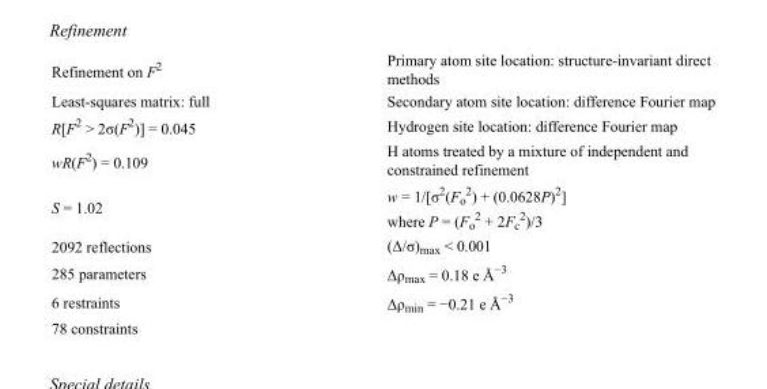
<table><tbody><tr><td>Refinement on F<sup>2</sup></td><td>Primary atom site location: structure-invariant direct methods</td></tr><tr><td>Least-squares matrix: full</td><td>Secondary atom site location: difference Fourier map</td></tr><tr><td>R[F<sup>2</sup> &gt; 2σ(F<sup>2</sup>)] = 0.045</td><td>Hydrogen site location: difference Fourier map</td></tr><tr><td>wR(F<sup>2</sup>) = 0.109</td><td>H atoms treated by a mixture of independent and constrained refinement</td></tr><tr><td>S = 1.02</td><td>w = 1/[σ<sup>2</sup>(F<sub>o</sub> <sup>2</sup>) + (0.0628P)<sup>2</sup>] where P = (F<sub>o</sub> <sup>2</sup> + 2F<sub>c</sub> <sup>2</sup>)/3</td></tr><tr><td>2092 reflections</td><td>(Δ/σ)<sub>max</sub> &lt; 0.001</td></tr><tr><td>285 parameters</td><td>Δρ<sub>max</sub> = 0.18 e Å<sup>−3</sup></td></tr><tr><td>6 restraints</td><td>Δρ<sub>min</sub> = −0.21 e Å<sup>−3</sup></td></tr><tr><td>78 constraints</td><td></td></tr></tbody></table>